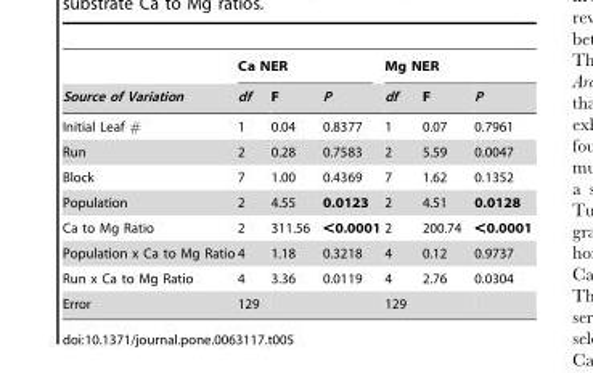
<table><thead><tr><td rowspan="2">Source of Variation</td><td colspan="3">Ca NER</td><td colspan="3">Mg NER</td></tr><tr><td>df</td><td>F</td><td>P</td><td>df</td><td>F</td><td>P</td></tr></thead><tbody><tr><td>Initial Leaf #</td><td>1</td><td>0.04</td><td>0.8377</td><td>1</td><td>0.07</td><td>0.7961</td></tr><tr><td>Run</td><td>2</td><td>0.28</td><td>0.7583</td><td>2</td><td>5.59</td><td>0.0047</td></tr><tr><td>Block</td><td>7</td><td>1.00</td><td>0.4369</td><td>7</td><td>1.62</td><td>0.1352</td></tr><tr><td>Population</td><td>2</td><td>4.55</td><td>0.0123</td><td>2</td><td>4.51</td><td>0.0128</td></tr><tr><td>Ca to Mg Ratio</td><td>2</td><td>311.56</td><td>&lt;0.0001</td><td>2</td><td>200.74</td><td>&lt;0.0001</td></tr><tr><td>Population x Ca to Mg Ratio</td><td>4</td><td>1.18</td><td>0.3218</td><td>4</td><td>0.12</td><td>0.9737</td></tr><tr><td>Run x Ca to Mg Ratio</td><td>4</td><td>3.36</td><td>0.0119</td><td>4</td><td>2.76</td><td>0.0304</td></tr><tr><td>Error</td><td>129</td><td></td><td></td><td>129</td><td></td><td></td></tr></tbody></table>